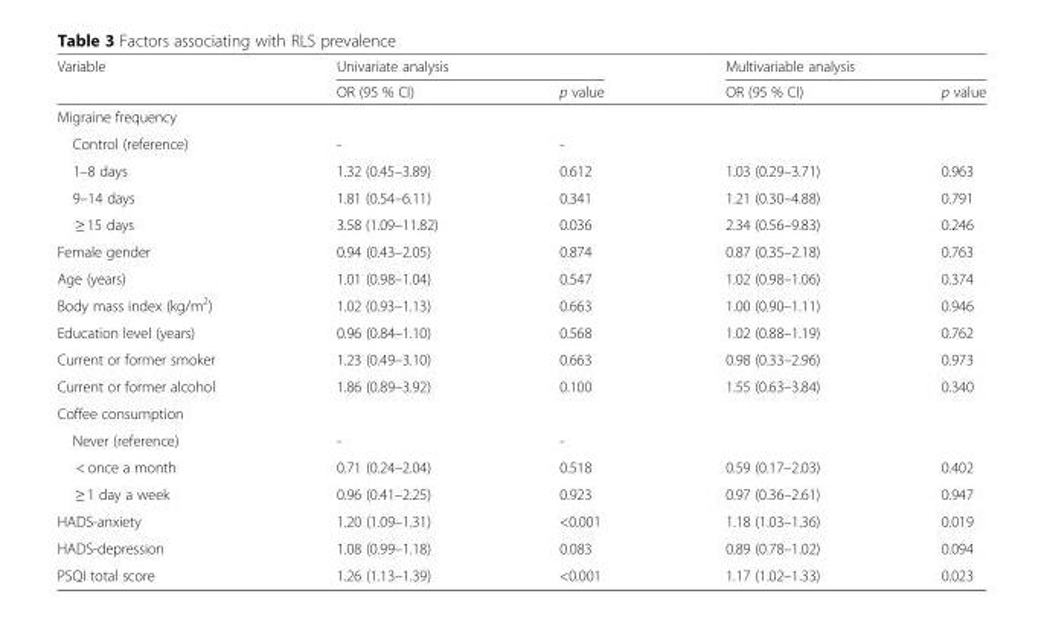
<table><thead><tr><td rowspan="2">Variable</td><td colspan="2">Univariate analysis</td><td colspan="2">Multivariable analysis</td></tr><tr><td>OR (95 % CI)</td><td>p value</td><td>OR (95 % CI)</td><td>p value</td></tr></thead><tbody><tr><td colspan="5">Migraine frequency</td></tr><tr><td>Control (reference)</td><td>-</td><td>-</td><td></td><td></td></tr><tr><td>1–8 days</td><td>1.32 (0.45–3.89)</td><td>0.612</td><td>1.03 (0.29–3.71)</td><td>0.963</td></tr><tr><td>9–14 days</td><td>1.81 (0.54–6.11)</td><td>0.341</td><td>1.21 (0.30–4.88)</td><td>0.791</td></tr><tr><td>≥ 15 days</td><td>3.58 (1.09–11.82)</td><td>0.036</td><td>2.34 (0.56–9.83)</td><td>0.246</td></tr><tr><td>Female gender</td><td>0.94 (0.43–2.05)</td><td>0.874</td><td>0.87 (0.35–2.18)</td><td>0.763</td></tr><tr><td>Age (years)</td><td>1.01 (0.98–1.04)</td><td>0.547</td><td>1.02 (0.98–1.06)</td><td>0.374</td></tr><tr><td>Body mass index (kg/m<sup>2</sup>)</td><td>1.02 (0.93–1.13)</td><td>0.663</td><td>1.00 (0.90–1.11)</td><td>0.946</td></tr><tr><td>Education level (years)</td><td>0.96 (0.84–1.10)</td><td>0.568</td><td>1.02 (0.88–1.19)</td><td>0.762</td></tr><tr><td>Current or former smoker</td><td>1.23 (0.49–3.10)</td><td>0.663</td><td>0.98 (0.33–2.96)</td><td>0.973</td></tr><tr><td>Current or former alcohol</td><td>1.86 (0.89–3.92)</td><td>0.100</td><td>1.55 (0.63–3.84)</td><td>0.340</td></tr><tr><td colspan="5">Coffee consumption</td></tr><tr><td>Never (reference)</td><td>-</td><td>-</td><td></td><td></td></tr><tr><td>&lt; once a month</td><td>0.71 (0.24–2.04)</td><td>0.518</td><td>0.59 (0.17–2.03)</td><td>0.402</td></tr><tr><td>≥ 1 day a week</td><td>0.96 (0.41–2.25)</td><td>0.923</td><td>0.97 (0.36–2.61)</td><td>0.947</td></tr><tr><td>HADS-anxiety</td><td>1.20 (1.09–1.31)</td><td>&lt;0.001</td><td>1.18 (1.03–1.36)</td><td>0.019</td></tr><tr><td>HADS-depression</td><td>1.08 (0.99–1.18)</td><td>0.083</td><td>0.89 (0.78–1.02)</td><td>0.094</td></tr><tr><td>PSQI total score</td><td>1.26 (1.13–1.39)</td><td>&lt;0.001</td><td>1.17 (1.02–1.33)</td><td>0.023</td></tr></tbody></table>